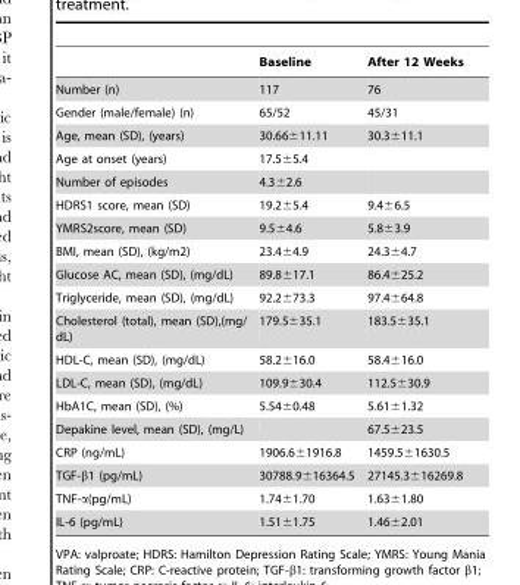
<table><thead><tr><td></td><td>Baseline</td><td>After 12 Weeks</td></tr></thead><tbody><tr><td>Number (n)</td><td>117</td><td>76</td></tr><tr><td>Gender (male/female) (n)</td><td>65/52</td><td>45/31</td></tr><tr><td>Age, mean (SD), (years)</td><td>30.66±11.11</td><td>30.3±11.1</td></tr><tr><td>Age at onset (years)</td><td>17.5±5.4</td><td></td></tr><tr><td>Number of episodes</td><td>4.3±2.6</td><td></td></tr><tr><td>HDRS1 score, mean (SD)</td><td>19.2±5.4</td><td>9.4±6.5</td></tr><tr><td>YMRS2score, mean (SD)</td><td>9.5±4.6</td><td>5.8±3.9</td></tr><tr><td>BMI, mean (SD), (kg/m2)</td><td>23.4±4.9</td><td>24.3±4.7</td></tr><tr><td>Glucose AC, mean (SD), (mg/dL)</td><td>89.8±17.1</td><td>86.4±25.2</td></tr><tr><td>Triglyceride, mean (SD), (mg/dL)</td><td>92.2±73.3</td><td>97.4±64.8</td></tr><tr><td>Cholesterol (total), mean (SD),(mg/ dL)</td><td>179.5±35.1</td><td>183.5±35.1</td></tr><tr><td>HDL-C, mean (SD), (mg/dL)</td><td>58.2±16.0</td><td>58.4±16.0</td></tr><tr><td>LDL-C, mean (SD), (mg/dL)</td><td>109.9±30.4</td><td>112.5±30.9</td></tr><tr><td>HbA1C, mean (SD), (%)</td><td>5.54±0.48</td><td>5.61±1.32</td></tr><tr><td>Depakine level, mean (SD), (mg/L)</td><td></td><td>67.5±23.5</td></tr><tr><td>CRP (ng/mL)</td><td>1906.6±1916.8</td><td>1459.5±1630.5</td></tr><tr><td>TGF-β1 (pg/mL)</td><td>30788.9±16364.5</td><td>27145.3±16269.8</td></tr><tr><td>TNF-α(pg/mL)</td><td>1.74±1.70</td><td>1.63±1.80</td></tr><tr><td>IL-6 (pg/mL)</td><td>1.51±1.75</td><td>1.46±2.01</td></tr></tbody></table>